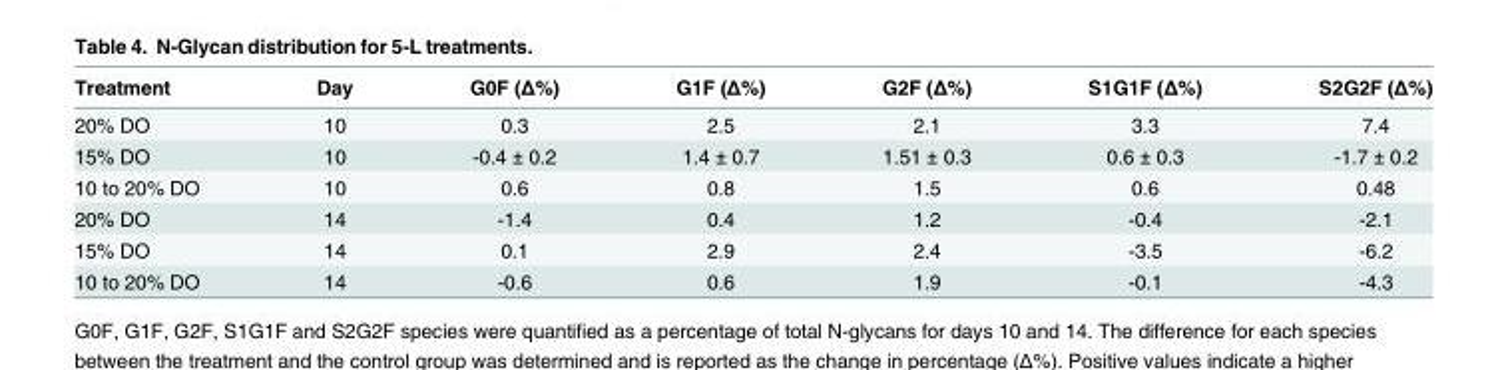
<table><thead><tr><td>Treatment</td><td>Day</td><td>G0F (Δ%)</td><td>G1F (Δ%)</td><td>G2F (Δ%)</td><td>S1G1F (Δ%)</td><td>S2G2F (Δ%)</td></tr></thead><tbody><tr><td>20% DO</td><td>10</td><td>0.3</td><td>2.5</td><td>2.1</td><td>3.3</td><td>7.4</td></tr><tr><td>15% DO</td><td>10</td><td>-0.4 ± 0.2</td><td>1.4 ± 0.7</td><td>1.51 ± 0.3</td><td>0.6 ± 0.3</td><td>-1.7 ± 0.2</td></tr><tr><td>10 to 20% DO</td><td>10</td><td>0.6</td><td>0.8</td><td>1.5</td><td>0.6</td><td>0.48</td></tr><tr><td>20% DO</td><td>14</td><td>-1.4</td><td>0.4</td><td>1.2</td><td>-0.4</td><td>-2.1</td></tr><tr><td>15% DO</td><td>14</td><td>0.1</td><td>2.9</td><td>2.4</td><td>-3.5</td><td>-6.2</td></tr><tr><td>10 to 20% DO</td><td>14</td><td>-0.6</td><td>0.6</td><td>1.9</td><td>-0.1</td><td>-4.3</td></tr></tbody></table>